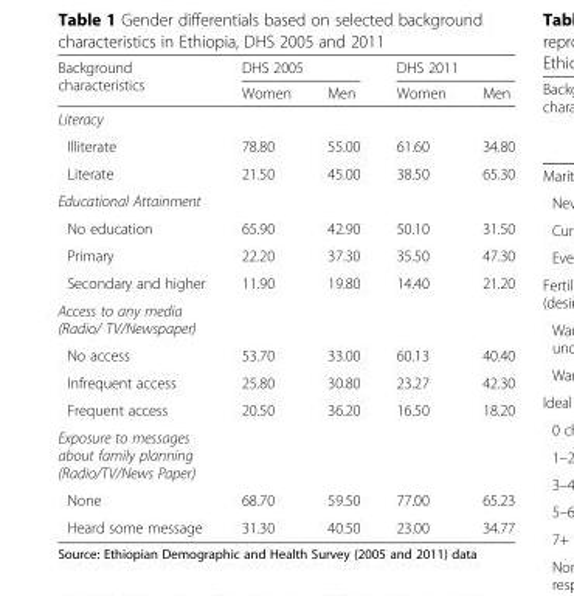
<table><thead><tr><td rowspan="2">Background characteristics</td><td colspan="2">DHS 2005</td><td colspan="2">DHS 2011</td></tr><tr><td>Women</td><td>Men</td><td>Women</td><td>Men</td></tr></thead><tbody><tr><td colspan="5">Literacy</td></tr><tr><td>Illiterate</td><td>78.80</td><td>55.00</td><td>61.60</td><td>34.80</td></tr><tr><td>Literate</td><td>21.50</td><td>45.00</td><td>38.50</td><td>65.30</td></tr><tr><td colspan="5">Educational Attainment</td></tr><tr><td>No education</td><td>65.90</td><td>42.90</td><td>50.10</td><td>31.50</td></tr><tr><td>Primary</td><td>22.20</td><td>37.30</td><td>35.50</td><td>47.30</td></tr><tr><td>Secondary and higher</td><td>11.90</td><td>19.80</td><td>14.40</td><td>21.20</td></tr><tr><td colspan="5">Access to any media (Radio/ TV/Newspaper)</td></tr><tr><td>No access</td><td>53.70</td><td>33.00</td><td>60.13</td><td>40.40</td></tr><tr><td>Infrequent access</td><td>25.80</td><td>30.80</td><td>23.27</td><td>42.30</td></tr><tr><td>Frequent access</td><td>20.50</td><td>36.20</td><td>16.50</td><td>18.20</td></tr><tr><td colspan="5">Exposure to messages about family planning (Radio/TV/News Paper)</td></tr><tr><td>None</td><td>68.70</td><td>59.50</td><td>77.00</td><td>65.23</td></tr><tr><td>Heard some message</td><td>31.30</td><td>40.50</td><td>23.00</td><td>34.77</td></tr></tbody></table>